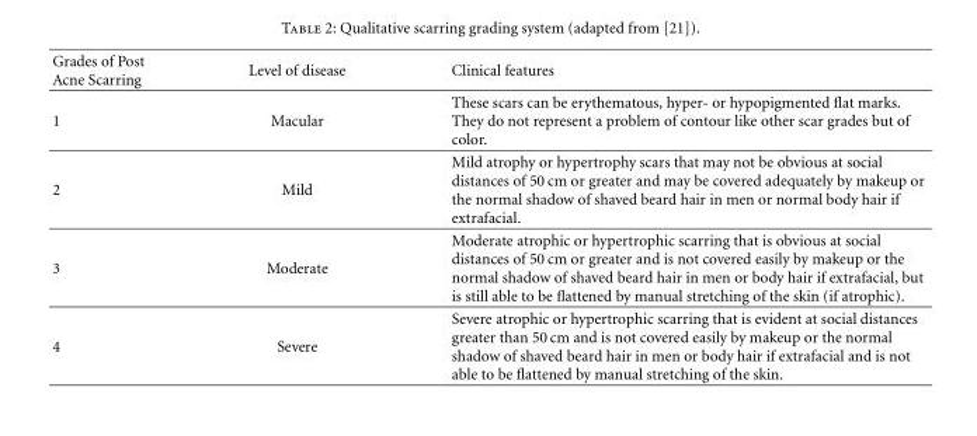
<table><thead><tr><td>Grades of Post Acne Scarring</td><td>Level of disease</td><td>Clinical features</td></tr></thead><tbody><tr><td>1</td><td>Macular</td><td>These scars can be erythematous, hyper- or hypopigmented flat marks. They do not represent a problem of contour like other scar grades but of color.</td></tr><tr><td>2</td><td>Mild</td><td>Mild atrophy or hypertrophy scars that may not be obvious at social distances of 50 cm or greater and may be covered adequately by makeup or the normal shadow of shaved beard hair in men or normal body hair if extrafacial.</td></tr><tr><td>3</td><td>Moderate</td><td>Moderate atrophic or hypertrophic scarring that is obvious at social distances of 50 cm or greater and is not covered easily by makeup or the normal shadow of shaved beard hair in men or body hair if extrafacial, but is still able to be flattened by manual stretching of the skin (if atrophic).</td></tr><tr><td>4</td><td>Severe</td><td>Severe atrophic or hypertrophic scarring that is evident at social distances greater than 50 cm and is not covered easily by makeup or the normal shadow of shaved beard hair in men or body hair if extrafacial and is not able to be flattened by manual stretching of the skin.</td></tr></tbody></table>